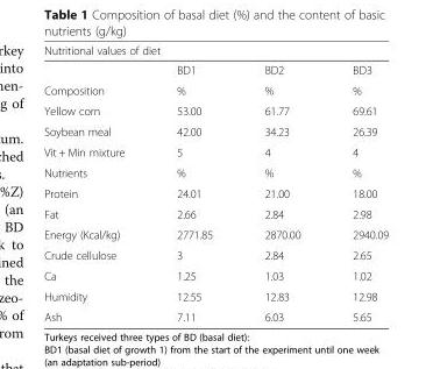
<table><thead><tr><td colspan="4">Nutritional values of diet</td></tr><tr><td></td><td>BD1</td><td>BD2</td><td>BD3</td></tr></thead><tbody><tr><td>Composition</td><td>%</td><td>%</td><td>%</td></tr><tr><td>Yellow corn</td><td>53.00</td><td>61.77</td><td>69.61</td></tr><tr><td>Soybean meal</td><td>42.00</td><td>34.23</td><td>26.39</td></tr><tr><td>Vit + Min mixture</td><td>5</td><td>4</td><td>4</td></tr><tr><td>Nutrients</td><td>%</td><td>%</td><td>%</td></tr><tr><td>Protein</td><td>24.01</td><td>21.00</td><td>18.00</td></tr><tr><td>Fat</td><td>2.66</td><td>2.84</td><td>2.98</td></tr><tr><td>Energy (Kcal/kg)</td><td>2771.85</td><td>2870.00</td><td>2940.09</td></tr><tr><td>Crude cellulose</td><td>3</td><td>2.84</td><td>2.65</td></tr><tr><td>Ca</td><td>1.25</td><td>1.03</td><td>1.02</td></tr><tr><td>Humidity</td><td>12.55</td><td>12.83</td><td>12.98</td></tr><tr><td>Ash</td><td>7.11</td><td>6.03</td><td>5.65</td></tr></tbody></table>